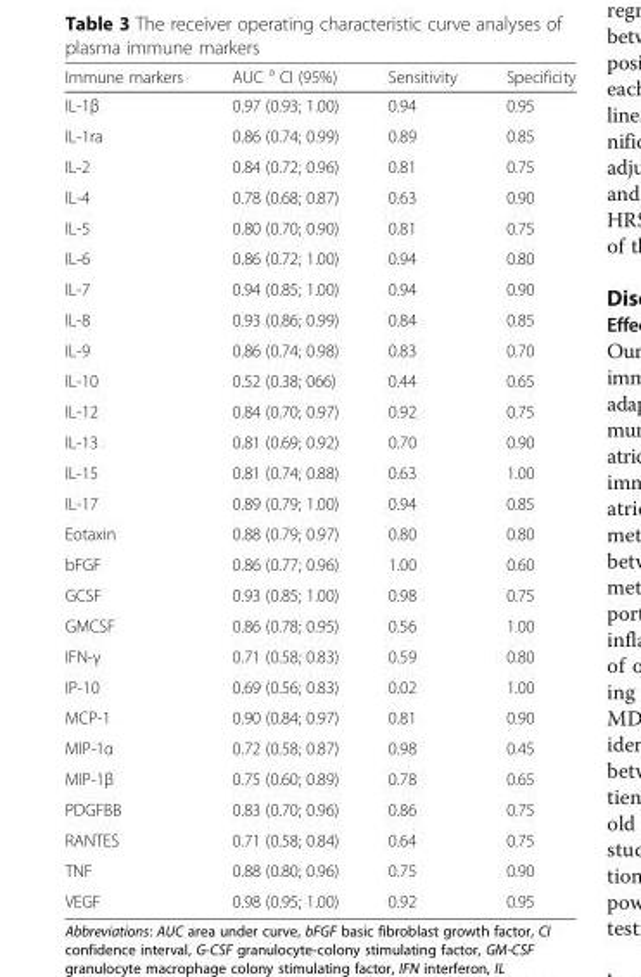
<table><thead><tr><td>Immune markers</td><td>AUC <sup>a</sup> CI (95%)</td><td>Sensitivity</td><td>Specificity</td></tr></thead><tbody><tr><td>IL-1β</td><td>0.97 (0.93; 1.00)</td><td>0.94</td><td>0.95</td></tr><tr><td>IL-1ra</td><td>0.86 (0.74; 0.99)</td><td>0.89</td><td>0.85</td></tr><tr><td>IL-2</td><td>0.84 (0.72; 0.96)</td><td>0.81</td><td>0.75</td></tr><tr><td>IL-4</td><td>0.78 (0.68; 0.87)</td><td>0.63</td><td>0.90</td></tr><tr><td>IL-5</td><td>0.80 (0.70; 0.90)</td><td>0.81</td><td>0.75</td></tr><tr><td>IL-6</td><td>0.86 (0.72; 1.00)</td><td>0.94</td><td>0.80</td></tr><tr><td>IL-7</td><td>0.94 (0.85; 1.00)</td><td>0.94</td><td>0.90</td></tr><tr><td>IL-8</td><td>0.93 (0.86; 0.99)</td><td>0.84</td><td>0.85</td></tr><tr><td>IL-9</td><td>0.86 (0.74; 0.98)</td><td>0.83</td><td>0.70</td></tr><tr><td>IL-10</td><td>0.52 (0.38; 066)</td><td>0.44</td><td>0.65</td></tr><tr><td>IL-12</td><td>0.84 (0.70; 0.97)</td><td>0.92</td><td>0.75</td></tr><tr><td>IL-13</td><td>0.81 (0.69; 0.92)</td><td>0.70</td><td>0.90</td></tr><tr><td>IL-15</td><td>0.81 (0.74; 0.88)</td><td>0.63</td><td>1.00</td></tr><tr><td>IL-17</td><td>0.89 (0.79; 1.00)</td><td>0.94</td><td>0.85</td></tr><tr><td>Eotaxin</td><td>0.88 (0.79; 0.97)</td><td>0.80</td><td>0.80</td></tr><tr><td>bFGF</td><td>0.86 (0.77; 0.96)</td><td>1.00</td><td>0.60</td></tr><tr><td>GCSF</td><td>0.93 (0.85; 1.00)</td><td>0.98</td><td>0.75</td></tr><tr><td>GMCSF</td><td>0.86 (0.78; 0.95)</td><td>0.56</td><td>1.00</td></tr><tr><td>IFN-γ</td><td>0.71 (0.58; 0.83)</td><td>0.59</td><td>0.80</td></tr><tr><td>IP-10</td><td>0.69 (0.56; 0.83)</td><td>0.02</td><td>1.00</td></tr><tr><td>MCP-1</td><td>0.90 (0.84; 0.97)</td><td>0.81</td><td>0.90</td></tr><tr><td>MIP-1α</td><td>0.72 (0.58; 0.87)</td><td>0.98</td><td>0.45</td></tr><tr><td>MIP-1β</td><td>0.75 (0.60; 0.89)</td><td>0.78</td><td>0.65</td></tr><tr><td>PDGFBB</td><td>0.83 (0.70; 0.96)</td><td>0.86</td><td>0.75</td></tr><tr><td>RANTES</td><td>0.71 (0.58; 0.84)</td><td>0.64</td><td>0.75</td></tr><tr><td>TNF</td><td>0.88 (0.80; 0.96)</td><td>0.75</td><td>0.90</td></tr><tr><td>VEGF</td><td>0.98 (0.95; 1.00)</td><td>0.92</td><td>0.95</td></tr></tbody></table>